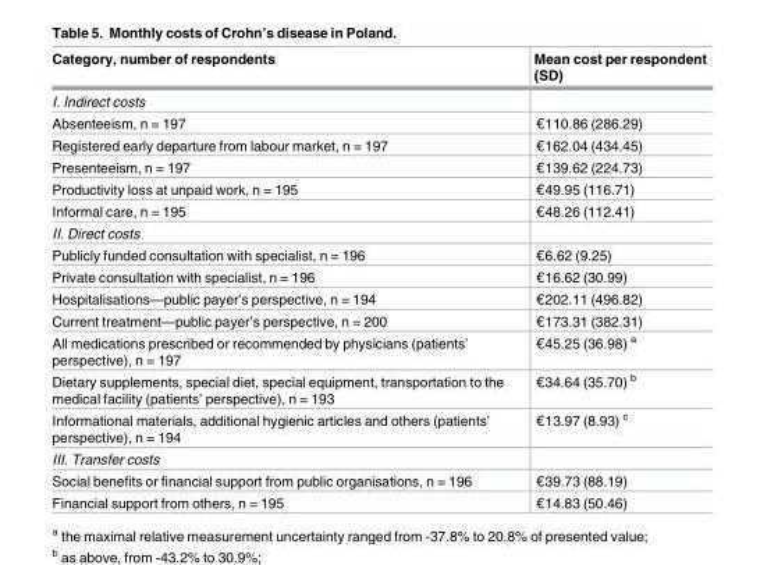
<table><thead><tr><td>Category, number of respondents</td><td>Mean cost per respondent (SD)</td></tr></thead><tbody><tr><td colspan="2">I. Indirect costs</td></tr><tr><td>Absenteeism, n = 197</td><td>€110.86 (286.29)</td></tr><tr><td>Registered early departure from labour market, n = 197</td><td>€162.04 (434.45)</td></tr><tr><td>Presenteeism, n = 197</td><td>€139.62 (224.73)</td></tr><tr><td>Productivity loss at unpaid work, n = 195</td><td>€49.95 (116.71)</td></tr><tr><td>Informal care, n = 195</td><td>€48.26 (112.41)</td></tr><tr><td colspan="2">II. Direct costs</td></tr><tr><td>Publicly funded consultation with specialist, n = 196</td><td>€6.62 (9.25)</td></tr><tr><td>Private consultation with specialist, n = 196</td><td>€16.62 (30.99)</td></tr><tr><td>Hospitalisations—public payer’s perspective, n = 194</td><td>€202.11 (496.82)</td></tr><tr><td>Current treatment—public payer’s perspective, n = 200</td><td>€173.31 (382.31)</td></tr><tr><td>All medications prescribed or recommended by physicians (patients’ perspective), n = 197</td><td>€45.25 (36.98) <sup>a</sup></td></tr><tr><td>Dietary supplements, special diet, special equipment, transportation to the medical facility (patients’ perspective), n = 193</td><td>€34.64 (35.70) <sup>b</sup></td></tr><tr><td>Informational materials, additional hygienic articles and others (patients’ perspective), n = 194</td><td>€13.97 (8.93) <sup>c</sup></td></tr><tr><td colspan="2">III. Transfer costs</td></tr><tr><td>Social benefits or financial support from public organisations, n = 196</td><td>€39.73 (88.19)</td></tr><tr><td>Financial support from others, n = 195</td><td>€14.83 (50.46)</td></tr></tbody></table>